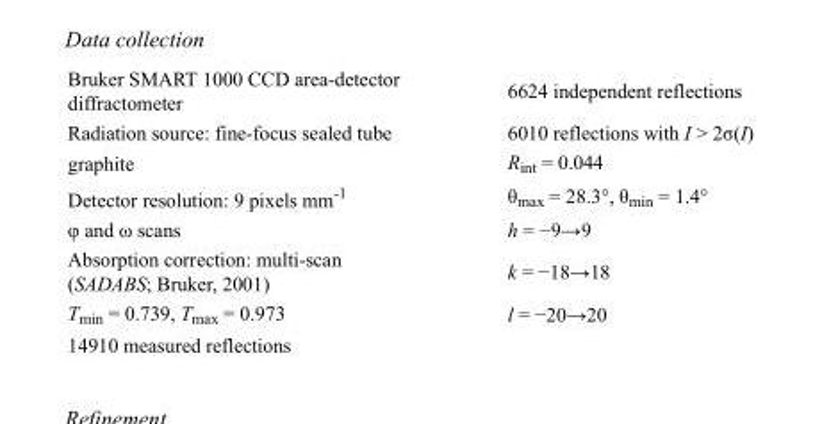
<table><tbody><tr><td>Bruker SMART 1000 CCD area-detector diffractometer</td><td>6624 independent reflections</td></tr><tr><td>Radiation source: fine-focus sealed tube</td><td>6010 reflections with I &gt; 2σ(I)</td></tr><tr><td>graphite</td><td>R<sub>int</sub> = 0.044</td></tr><tr><td>Detector resolution: 9 pixels mm<sup>-1</sup></td><td>θ<sub>max</sub> = 28.3°, θ<sub>min</sub> = 1.4°</td></tr><tr><td>φ and ω scans</td><td>h = −9→9</td></tr><tr><td>Absorption correction: multi-scan (SADABS; Bruker, 2001)</td><td>k = −18→18</td></tr><tr><td>T<sub>min</sub> = 0.739, T<sub>max</sub> = 0.973</td><td>l = −20→20</td></tr><tr><td>14910 measured reflections</td><td></td></tr></tbody></table>